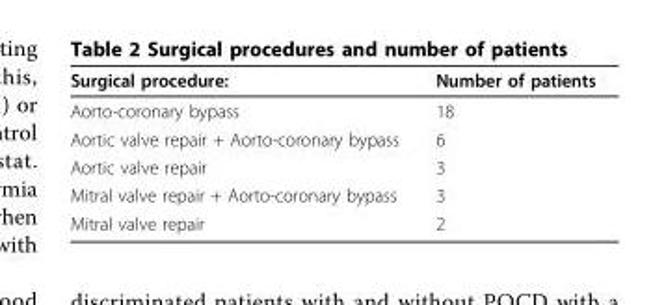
<table><thead><tr><td>Surgical procedure:</td><td>Number of patients</td></tr></thead><tbody><tr><td>Aorto-coronary bypass</td><td>18</td></tr><tr><td>Aortic valve repair + Aorto-coronary bypass</td><td>6</td></tr><tr><td>Aortic valve repair</td><td>3</td></tr><tr><td>Mitral valve repair + Aorto-coronary bypass</td><td>3</td></tr><tr><td>Mitral valve repair</td><td>2</td></tr></tbody></table>